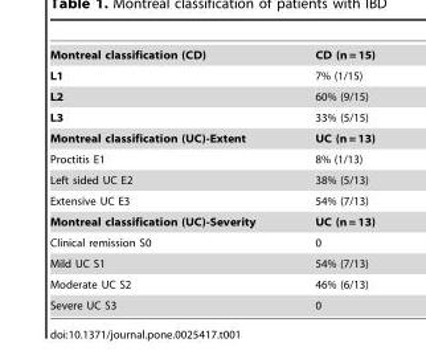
<table><tbody><tr><td>Montreal classification (CD)</td><td>CD (n = 15)</td></tr><tr><td>L1</td><td>7% (1/15)</td></tr><tr><td>L2</td><td>60% (9/15)</td></tr><tr><td>L3</td><td>33% (5/15)</td></tr><tr><td>Montreal classification (UC)-Extent</td><td>UC (n = 13)</td></tr><tr><td>Proctitis E1</td><td>8% (1/13)</td></tr><tr><td>Left sided UC E2</td><td>38% (5/13)</td></tr><tr><td>Extensive UC E3</td><td>54% (7/13)</td></tr><tr><td>Montreal classification (UC)-Severity</td><td>UC (n = 13)</td></tr><tr><td>Clinical remission S0</td><td>0</td></tr><tr><td>Mild UC S1</td><td>54% (7/13)</td></tr><tr><td>Moderate UC S2</td><td>46% (6/13)</td></tr><tr><td>Severe UC S3</td><td>0</td></tr></tbody></table>